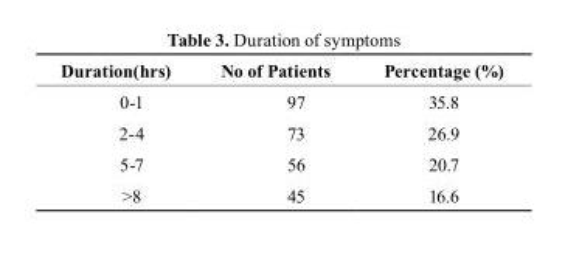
<table><thead><tr><td>Duration(hrs)</td><td>No of Patients</td><td>Percentage (%)</td></tr></thead><tbody><tr><td>0-1</td><td>97</td><td>35.8</td></tr><tr><td>2-4</td><td>73</td><td>26.9</td></tr><tr><td>5-7</td><td>56</td><td>20.7</td></tr><tr><td>&gt;8</td><td>45</td><td>16.6</td></tr></tbody></table>